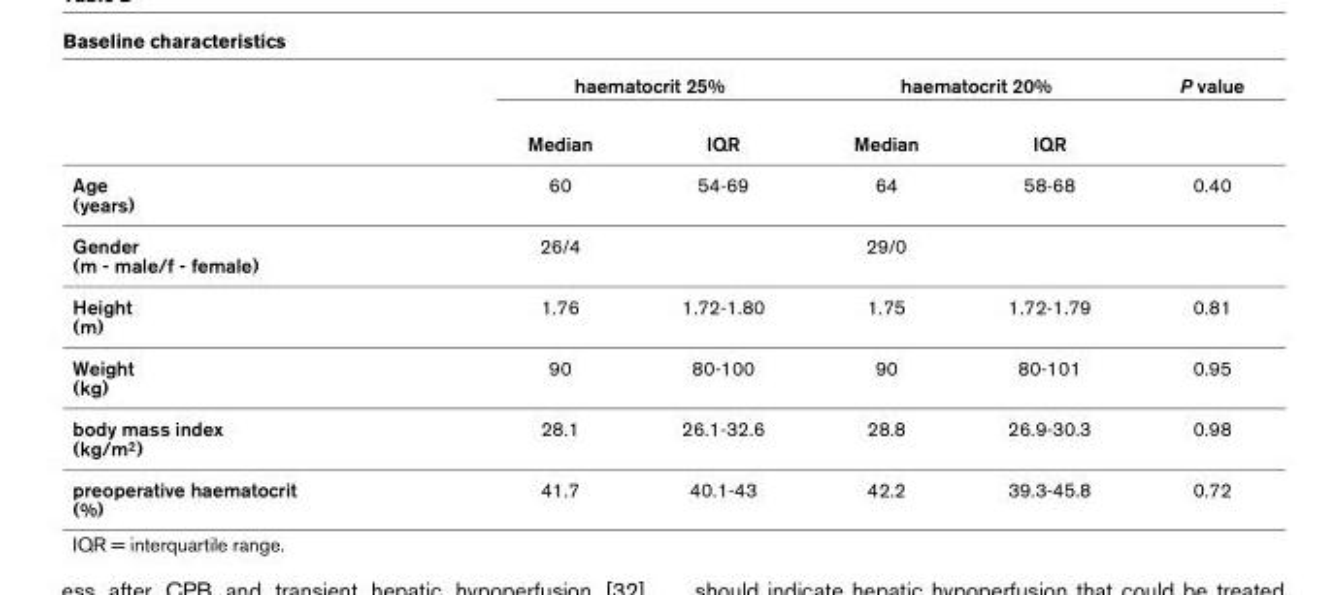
<table><thead><tr><td rowspan="2"></td><td colspan="2">haematocrit 25%</td><td colspan="2">haematocrit 20%</td><td rowspan="2">P value</td></tr><tr><td>Median</td><td>IQR</td><td>Median</td><td>IQR</td></tr></thead><tbody><tr><td>Age (years)</td><td>60</td><td>54-69</td><td>64</td><td>58-68</td><td>0.40</td></tr><tr><td>Gender (m - male/f - female)</td><td>26/4</td><td></td><td>29/0</td><td></td><td></td></tr><tr><td>Height (m)</td><td>1.76</td><td>1.72-1.80</td><td>1.75</td><td>1.72-1.79</td><td>0.81</td></tr><tr><td>Weight (kg)</td><td>90</td><td>80-100</td><td>90</td><td>80-101</td><td>0.95</td></tr><tr><td>body mass index (kg/m<sup>2</sup>)</td><td>28.1</td><td>26.1-32.6</td><td>28.8</td><td>26.9-30.3</td><td>0.98</td></tr><tr><td>preoperative haematocrit (%)</td><td>41.7</td><td>40.1-43</td><td>42.2</td><td>39.3-45.8</td><td>0.72</td></tr></tbody></table>